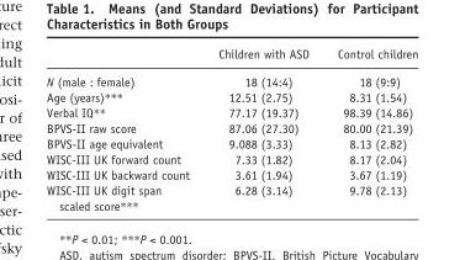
<table><thead><tr><td></td><td>Children with ASD</td><td>Control children</td></tr></thead><tbody><tr><td>N (male : female)</td><td>18 (14:4)</td><td>18 (9:9)</td></tr><tr><td>Age (years)***</td><td>12.51 (2.75)</td><td>8.31 (1.54)</td></tr><tr><td>Verbal IQ**</td><td>77.17 (19.37)</td><td>98.39 (14.86)</td></tr><tr><td>BPVS-II raw score</td><td>87.06 (27.30)</td><td>80.00 (21.39)</td></tr><tr><td>BPVS-II age equivalent</td><td>9.088 (3.33)</td><td>8.13 (2.82)</td></tr><tr><td>WISC-III UK forward count</td><td>7.33 (1.82)</td><td>8.17 (2.04)</td></tr><tr><td>WISC-III UK backward count</td><td>3.61 (1.94)</td><td>3.67 (1.19)</td></tr><tr><td>WISC-III UK digit span scaled score***</td><td>6.28 (3.14)</td><td>9.78 (2.13)</td></tr></tbody></table>